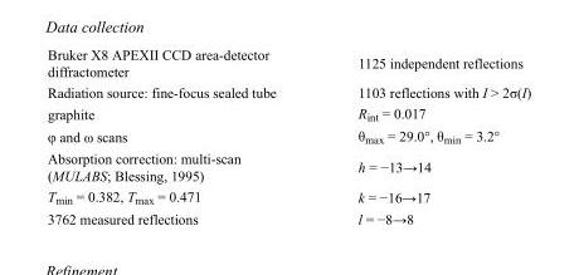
<table><tbody><tr><td>Bruker X8 APEXII CCD area-detector diffractometer</td><td>1125 independent reflections</td></tr><tr><td>Radiation source: fine-focus sealed tube</td><td>1103 reflections with I &gt; 2σ(I)</td></tr><tr><td>graphite</td><td>R<sub>int</sub> = 0.017</td></tr><tr><td>φ and ω scans</td><td>θ<sub>max</sub> = 29.0°, θ<sub>min</sub> = 3.2°</td></tr><tr><td>Absorption correction: multi-scan (MULABS; Blessing, 1995)</td><td>h = −13→14</td></tr><tr><td>T<sub>min</sub> = 0.382, T<sub>max</sub> = 0.471</td><td>k = −16→17</td></tr><tr><td>3762 measured reflections</td><td>l = −8→8</td></tr></tbody></table>